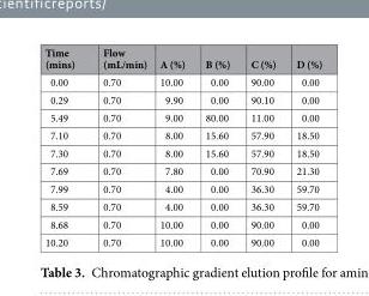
<table><thead><tr><td>Time (mins)</td><td>Flow (mL/min)</td><td>A (%)</td><td>B (%)</td><td>C (%)</td><td>D (%)</td></tr></thead><tbody><tr><td>0.00</td><td>0.70</td><td>10.00</td><td>0.00</td><td>90.00</td><td>0.00</td></tr><tr><td>0.29</td><td>0.70</td><td>9.90</td><td>0.00</td><td>90.10</td><td>0.00</td></tr><tr><td>5.49</td><td>0.70</td><td>9.00</td><td>80.00</td><td>11.00</td><td>0.00</td></tr><tr><td>7.10</td><td>0.70</td><td>8.00</td><td>15.60</td><td>57.90</td><td>18.50</td></tr><tr><td>7.30</td><td>0.70</td><td>8.00</td><td>15.60</td><td>57.90</td><td>18.50</td></tr><tr><td>7.69</td><td>0.70</td><td>7.80</td><td>0.00</td><td>70.90</td><td>21.30</td></tr><tr><td>7.99</td><td>0.70</td><td>4.00</td><td>0.00</td><td>36.30</td><td>59.70</td></tr><tr><td>8.59</td><td>0.70</td><td>4.00</td><td>0.00</td><td>36.30</td><td>59.70</td></tr><tr><td>8.68</td><td>0.70</td><td>10.00</td><td>0.00</td><td>90.00</td><td>0.00</td></tr><tr><td>10.20</td><td>0.70</td><td>10.00</td><td>0.00</td><td>90.00</td><td>0.00</td></tr></tbody></table>